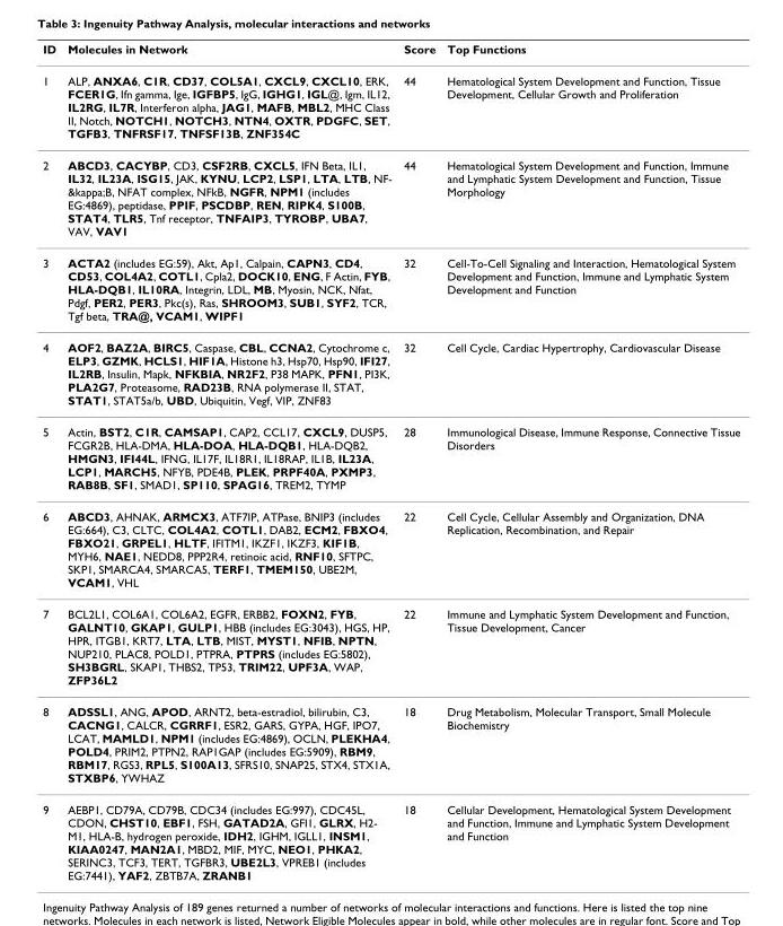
<table><thead><tr><td>ID</td><td>Molecules in Network</td><td>Score</td><td>Top Functions</td></tr></thead><tbody><tr><td>1</td><td>ALP, ANXA6, C1R, CD37, COL5A1, CXCL9, CXCL10, ERK, FCER1G, Ifn gamma, Ige, IGFBP5, IgG, IGHG1, IGL@, Igm, IL12, IL2RG, IL7R, Interferon alpha, JAG1, MAFB, MBL2, MHC Class II, Notch, NOTCH1, NOTCH3, NTN4, OXTR, PDGFC, SET, TGFB3, TNFRSF17, TNFSF13B, ZNF354C</td><td>44</td><td>Hematological System Development and Function, Tissue Development, Cellular Growth and Proliferation</td></tr><tr><td>2</td><td>ABCD3, CACYBP, CD3, CSF2RB, CXCL5, IFN Beta, IL1, IL32, IL23A, ISG15, JAK, KYNU, LCP2, LSP1, LTA, LTB, NF- &amp;kappa;B, NFAT complex, NFkB, NGFR, NPM1 (includes EG:4869), peptidase, PPIF, PSCDBP, REN, RIPK4, S100B, STAT4, TLR5, Tnf receptor, TNFAIP3, TYROBP, UBA7, VAV, VAV1</td><td>44</td><td>Hematological System Development and Function, Immune and Lymphatic System Development and Function, Tissue Morphology</td></tr><tr><td>3</td><td>ACTA2 (includes EG:59), Akt, Ap1, Calpain, CAPN3, CD4, CD53, COL4A2, COTL1, Cpla2, DOCK10, ENG, F Actin, FYB, HLA-DQB1, IL10RA, Integrin, LDL, MB, Myosin, NCK, Nfat, Pdgf, PER2, PER3, Pkc(s), Ras, SHROOM3, SUB1, SYF2, TCR, Tgf beta, TRA@, VCAM1, WIPF1</td><td>32</td><td>Cell-To-Cell Signaling and Interaction, Hematological System Development and Function, Immune and Lymphatic System Development and Function</td></tr><tr><td>4</td><td>AOF2, BAZ2A, BIRC5, Caspase, CBL, CCNA2, Cytochrome c, ELP3, GZMK, HCLS1, HIF1A, Histone h3, Hsp70, Hsp90, IFI27, IL2RB, Insulin, Mapk, NFKBIA, NR2F2, P38 MAPK, PFN1, PI3K, PLA2G7, Proteasome, RAD23B, RNA polymerase II, STAT, STAT1, STAT5a/b, UBD, Ubiquitin, Vegf, VIP, ZNF83</td><td>32</td><td>Cell Cycle, Cardiac Hypertrophy, Cardiovascular Disease</td></tr><tr><td>5</td><td>Actin, BST2, C1R, CAMSAP1, CAP2, CCL17, CXCL9, DUSP5, FCGR2B, HLA-DMA, HLA-DOA, HLA-DQB1, HLA-DQB2, HMGN3, IFI44L, IFNG, IL17F, IL18R1, IL18RAP, IL1B, IL23A, LCP1, MARCH5, NFYB, PDE4B, PLEK, PRPF40A, PXMP3, RAB8B, SF1, SMAD1, SP110, SPAG16, TREM2, TYMP</td><td>28</td><td>Immunological Disease, Immune Response, Connective Tissue Disorders</td></tr><tr><td>6</td><td>ABCD3, AHNAK, ARMCX3, ATF7IP, ATPase, BNIP3 (includes EG:664), C3, CLTC, COL4A2, COTL1, DAB2, ECM2, FBXO4, FBXO21, GRPEL1, HLTF, IFITM1, IKZF1, IKZF3, KIF1B, MYH6, NAE1, NEDD8, PPP2R4, retinoic acid, RNF10, SFTPC, SKP1, SMARCA4, SMARCA5, TERF1, TMEM150, UBE2M, VCAM1, VHL</td><td>22</td><td>Cell Cycle, Cellular Assembly and Organization, DNA Replication, Recombination, and Repair</td></tr><tr><td>7</td><td>BCL2L1, COL6A1, COL6A2, EGFR, ERBB2, FOXN2, FYB, GALNT10, GKAP1, GULP1, HBB (includes EG:3043), HGS, HP, HPR, ITGB1, KRT7, LTA, LTB, MIST, MYST1, NFIB, NPTN, NUP210, PLAC8, POLD1, PTPRA, PTPRS (includes EG:5802), SH3BGRL, SKAP1, THBS2, TP53, TRIM22, UPF3A, WAP, ZFP36L2</td><td>22</td><td>Immune and Lymphatic System Development and Function, Tissue Development, Cancer</td></tr><tr><td>8</td><td>ADSSL1, ANG, APOD, ARNT2, beta-estradiol, bilirubin, C3, CACNG1, CALCR, CGRRF1, ESR2, GARS, GYPA, HGF, IPO7, LCAT, MAMLD1, NPM1 (includes EG:4869), OCLN, PLEKHA4, POLD4, PRIM2, PTPN2, RAP1GAP (includes EG:5909), RBM9, RBM17, RGS3, RPL5, S100A13, SFRS10, SNAP25, STX4, STX1A, STXBP6, YWHAZ</td><td>18</td><td>Drug Metabolism, Molecular Transport, Small Molecule Biochemistry</td></tr><tr><td>9</td><td>AEBP1, CD79A, CD79B, CDC34 (includes EG:997), CDC45L, CDON, CHST10, EBF1, FSH, GATAD2A, GFI1, GLRX, H2- M1, HLA-B, hydrogen peroxide, IDH2, IGHM, IGLL1, INSM1, KIAA0247, MAN2A1, MBD2, MIF, MYC, NEO1, PHKA2, SERINC3, TCF3, TERT, TGFBR3, UBE2L3, VPREB1 (includes EG:7441), YAF2, ZBTB7A, ZRANB1</td><td>18</td><td>Cellular Development, Hematological System Development and Function, Immune and Lymphatic System Development and Function</td></tr></tbody></table>